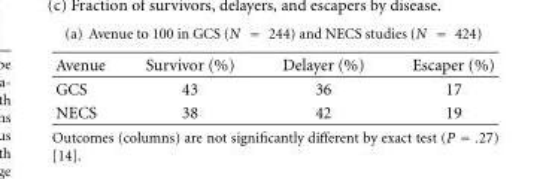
<table><thead><tr><td>Avenue</td><td>Survivor (%)</td><td>Delayer (%)</td><td>Escaper (%)</td></tr></thead><tbody><tr><td>GCS</td><td>43</td><td>36</td><td>17</td></tr><tr><td>NECS</td><td>38</td><td>42</td><td>19</td></tr></tbody></table>